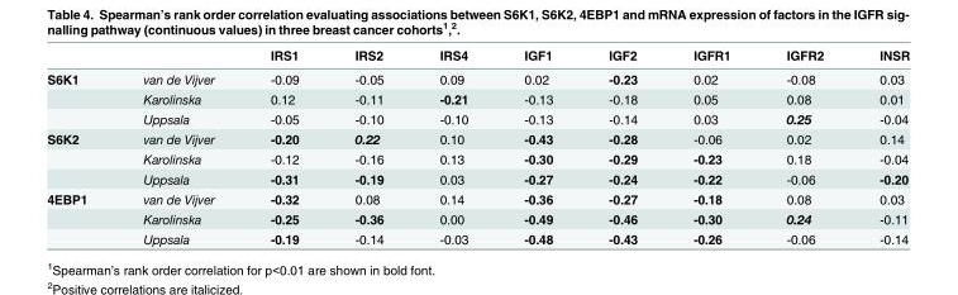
<table><thead><tr><td></td><td></td><td>IRS1</td><td>IRS2</td><td>IRS4</td><td>IGF1</td><td>IGF2</td><td>IGFR1</td><td>IGFR2</td><td>INSR</td></tr></thead><tbody><tr><td rowspan="3">S6K1</td><td>van de Vijver</td><td>-0.09</td><td>-0.05</td><td>0.09</td><td>0.02</td><td>-0.23</td><td>0.02</td><td>-0.08</td><td>0.03</td></tr><tr><td>Karolinska</td><td>0.12</td><td>-0.11</td><td>-0.21</td><td>-0.13</td><td>-0.18</td><td>0.05</td><td>0.08</td><td>0.01</td></tr><tr><td>Uppsala</td><td>-0.05</td><td>-0.10</td><td>-0.10</td><td>-0.13</td><td>-0.14</td><td>0.03</td><td>0.25</td><td>-0.04</td></tr><tr><td rowspan="3">S6K2</td><td>van de Vijver</td><td>-0.20</td><td>0.22</td><td>0.10</td><td>-0.43</td><td>-0.28</td><td>-0.06</td><td>0.02</td><td>0.14</td></tr><tr><td>Karolinska</td><td>-0.12</td><td>-0.16</td><td>0.13</td><td>-0.30</td><td>-0.29</td><td>-0.23</td><td>0.18</td><td>-0.04</td></tr><tr><td>Uppsala</td><td>-0.31</td><td>-0.19</td><td>0.03</td><td>-0.27</td><td>-0.24</td><td>-0.22</td><td>-0.06</td><td>-0.20</td></tr><tr><td rowspan="3">4EBP1</td><td>van de Vijver</td><td>-0.32</td><td>0.08</td><td>0.14</td><td>-0.36</td><td>-0.27</td><td>-0.18</td><td>0.08</td><td>0.03</td></tr><tr><td>Karolinska</td><td>-0.25</td><td>-0.36</td><td>0.00</td><td>-0.49</td><td>-0.46</td><td>-0.30</td><td>0.24</td><td>-0.11</td></tr><tr><td>Uppsala</td><td>-0.19</td><td>-0.14</td><td>-0.03</td><td>-0.48</td><td>-0.43</td><td>-0.26</td><td>-0.06</td><td>-0.14</td></tr></tbody></table>